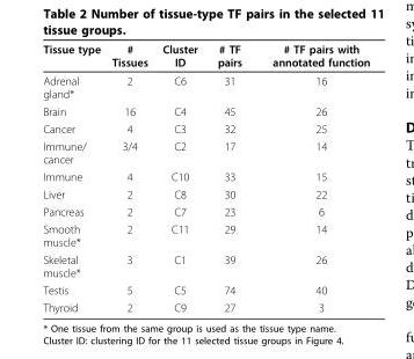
<table><thead><tr><td>Tissue type</td><td># Tissues</td><td>Cluster ID</td><td># TF pairs</td><td># TF pairs with annotated function</td></tr></thead><tbody><tr><td>Adrenal gland*</td><td>2</td><td>C6</td><td>31</td><td>16</td></tr><tr><td>Brain</td><td>16</td><td>C4</td><td>45</td><td>26</td></tr><tr><td>Cancer</td><td>4</td><td>C3</td><td>32</td><td>25</td></tr><tr><td>Immune/ cancer</td><td>3/4</td><td>C2</td><td>17</td><td>14</td></tr><tr><td>Immune</td><td>4</td><td>C10</td><td>33</td><td>15</td></tr><tr><td>Liver</td><td>2</td><td>C8</td><td>30</td><td>22</td></tr><tr><td>Pancreas</td><td>2</td><td>C7</td><td>23</td><td>6</td></tr><tr><td>Smooth muscle*</td><td>2</td><td>C11</td><td>29</td><td>14</td></tr><tr><td>Skeletal muscle*</td><td>3</td><td>C1</td><td>39</td><td>26</td></tr><tr><td>Testis</td><td>5</td><td>C5</td><td>74</td><td>40</td></tr><tr><td>Thyroid</td><td>2</td><td>C9</td><td>27</td><td>3</td></tr></tbody></table>